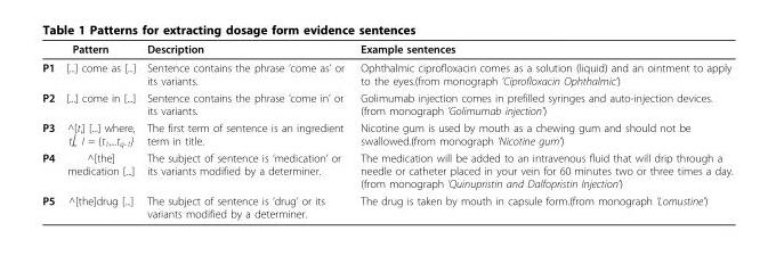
<table><thead><tr><td colspan="2">Pattern</td><td rowspan="2">Description Sentence contains the phrase ‘come as’ or its variants.</td><td rowspan="2">Example sentences Ophthalmic ciprofloxacin comes as a solution (liquid) and an ointment to apply to the eyes.(from monograph ’Ciprofloxacin Ophthalmic’)</td></tr><tr><td>P1</td><td>[...] come as [...]</td></tr></thead><tbody><tr><td>P2</td><td>[...] come in [...]</td><td>Sentence contains the phrase ‘come in’ or its variants.</td><td>Golimumab injection comes in prefilled syringes and auto-injection devices. (from monograph ’Golimumab injection’)</td></tr><tr><td>P3</td><td>^[t<sub>i</sub>] [...] where, t<sub>i</sub>∈ I = {t<sub>1</sub>,...t<sub>q-1</sub>}</td><td>The first term of sentence is an ingredient term in title.</td><td>Nicotine gum is used by mouth as a chewing gum and should not be swallowed.(from monograph ’Nicotine gum’)</td></tr><tr><td>P4</td><td>^[the] medication [...]</td><td>The subject of sentence is ‘medication’ or its variants modified by a determiner.</td><td>The medication will be added to an intravenous fluid that will drip through a needle or catheter placed in your vein for 60 minutes two or three times a day. (from monograph ’Quinupristin and Dalfopristin Injection’)</td></tr><tr><td>P5</td><td>^[the]drug [...]</td><td>The subject of sentence is ‘drug’ or its variants modified by a determiner.</td><td>The drug is taken by mouth in capsule form.(from monograph ’Lomustine’)</td></tr></tbody></table>